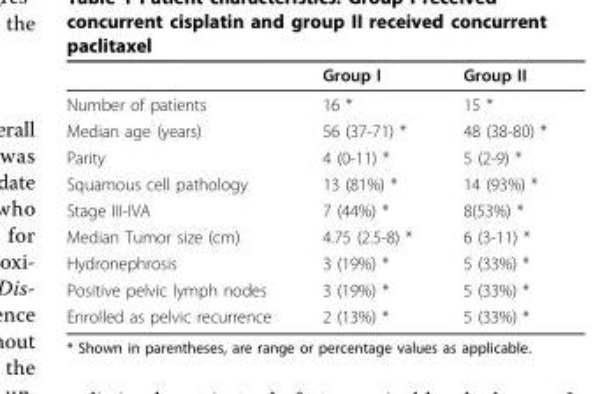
<table><thead><tr><td></td><td>Group I</td><td>Group II</td></tr></thead><tbody><tr><td>Number of patients</td><td>16 *</td><td>15 *</td></tr><tr><td>Median age (years)</td><td>56 (37-71) *</td><td>48 (38-80) *</td></tr><tr><td>Parity</td><td>4 (0-11) *</td><td>5 (2-9) *</td></tr><tr><td>Squamous cell pathology</td><td>13 (81%) *</td><td>14 (93%) *</td></tr><tr><td>Stage III-IVA</td><td>7 (44%) *</td><td>8(53%) *</td></tr><tr><td>Median Tumor size (cm)</td><td>4.75 (2.5-8) *</td><td>6 (3-11) *</td></tr><tr><td>Hydronephrosis</td><td>3 (19%) *</td><td>5 (33%) *</td></tr><tr><td>Positive pelvic lymph nodes</td><td>3 (19%) *</td><td>5 (33%) *</td></tr><tr><td>Enrolled as pelvic recurrence</td><td>2 (13%) *</td><td>5 (33%) *</td></tr></tbody></table>